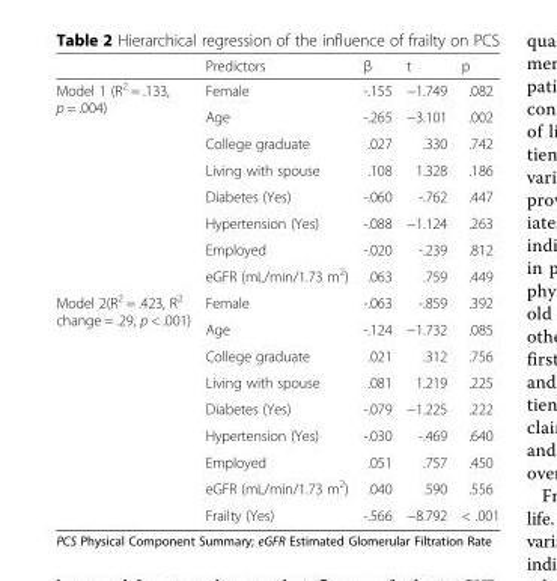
<table><thead><tr><td></td><td>Predictors</td><td>β</td><td>t</td><td>p</td></tr></thead><tbody><tr><td rowspan="8">Model 1 (R<sup>2</sup> = .133, p = .004)</td><td>Female</td><td>-.155</td><td>−1.749</td><td>.082</td></tr><tr><td>Age</td><td>-.265</td><td>−3.101</td><td>.002</td></tr><tr><td>College graduate</td><td>.027</td><td>.330</td><td>.742</td></tr><tr><td>Living with spouse</td><td>.108</td><td>1.328</td><td>.186</td></tr><tr><td>Diabetes (Yes)</td><td>-.060</td><td>-.762</td><td>.447</td></tr><tr><td>Hypertension (Yes)</td><td>-.088</td><td>−1.124</td><td>.263</td></tr><tr><td>Employed</td><td>-.020</td><td>-.239</td><td>.812</td></tr><tr><td>eGFR (mL/min/1.73 m<sup>2</sup>)</td><td>.063</td><td>.759</td><td>.449</td></tr><tr><td rowspan="9">Model 2(R<sup>2</sup> = .423, R<sup>2</sup> change = .29, p &lt; .001)</td><td>Female</td><td>-.063</td><td>-.859</td><td>.392</td></tr><tr><td>Age</td><td>-.124</td><td>−1.732</td><td>.085</td></tr><tr><td>College graduate</td><td>.021</td><td>.312</td><td>.756</td></tr><tr><td>Living with spouse</td><td>.081</td><td>1.219</td><td>.225</td></tr><tr><td>Diabetes (Yes)</td><td>-.079</td><td>−1.225</td><td>.222</td></tr><tr><td>Hypertension (Yes)</td><td>-.030</td><td>-.469</td><td>.640</td></tr><tr><td>Employed</td><td>.051</td><td>.757</td><td>.450</td></tr><tr><td>eGFR (mL/min/1.73 m<sup>2</sup>)</td><td>.040</td><td>.590</td><td>.556</td></tr><tr><td>Frailty (Yes)</td><td>-.566</td><td>−8.792</td><td>&lt; .001</td></tr></tbody></table>